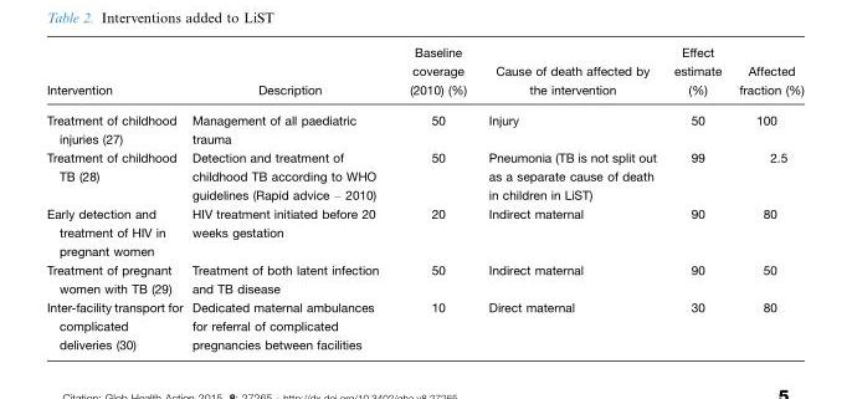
<table><thead><tr><td>Intervention</td><td>Description</td><td>Baseline coverage (2010) (%)</td><td>Cause of death affected by the intervention</td><td>Effect estimate (%)</td><td>Affected fraction (%)</td></tr></thead><tbody><tr><td>Treatment of childhood injuries (27)</td><td>Management of all paediatric trauma</td><td>50</td><td>Injury</td><td>50</td><td>100</td></tr><tr><td>Treatment of childhood TB (28)</td><td>Detection and treatment of childhood TB according to WHO guidelines (Rapid advice – 2010)</td><td>50</td><td>Pneumonia (TB is not split out as a separate cause of death in children in LiST)</td><td>99</td><td>2.5</td></tr><tr><td>Early detection and treatment of HIV in pregnant women</td><td>HIV treatment initiated before 20 weeks gestation</td><td>20</td><td>Indirect maternal</td><td>90</td><td>80</td></tr><tr><td>Treatment of pregnant women with TB (29)</td><td>Treatment of both latent infection and TB disease</td><td>50</td><td>Indirect maternal</td><td>90</td><td>50</td></tr><tr><td>Inter-facility transport for complicated deliveries (30)</td><td>Dedicated maternal ambulances for referral of complicated pregnancies between facilities</td><td>10</td><td>Direct maternal</td><td>30</td><td>80</td></tr></tbody></table>